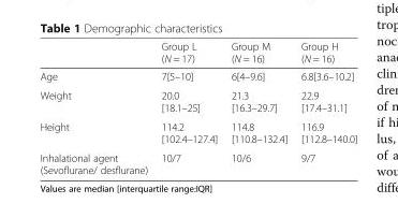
<table><thead><tr><td></td><td>Group L (N = 17)</td><td>Group M (N = 16)</td><td>Group H (N = 16)</td></tr></thead><tbody><tr><td>Age</td><td>7[5–10]</td><td>6[4–9.6]</td><td>6.8[3.6–10.2]</td></tr><tr><td>Weight</td><td>20.0 [18.1–25]</td><td>21.3 [16.3–29.7]</td><td>22.9 [17.4–31.1]</td></tr><tr><td>Height</td><td>114.2 [102.4–127.4]</td><td>114.8 [110.8–132.4]</td><td>116.9 [112.8–140.0]</td></tr><tr><td>Inhalational agent (Sevoflurane/ desflurane)</td><td>10/7</td><td>10/6</td><td>9/7</td></tr></tbody></table>